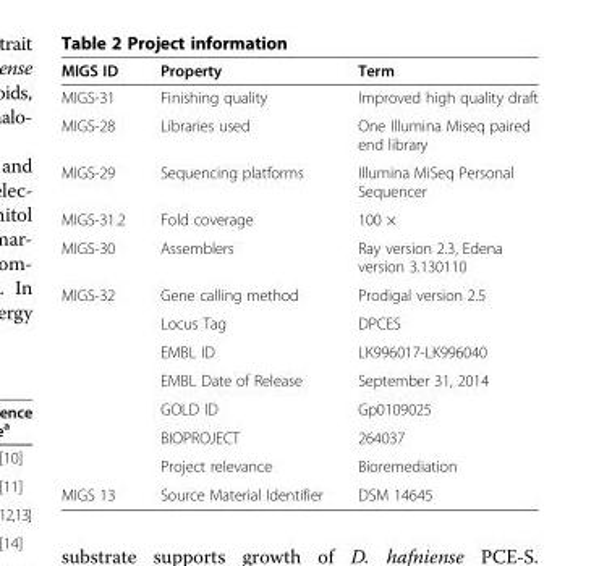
<table><thead><tr><td>MIGS ID</td><td>Property</td><td>Term</td></tr></thead><tbody><tr><td>MIGS-31</td><td>Finishing quality</td><td>Improved high quality draft</td></tr><tr><td>MIGS-28</td><td>Libraries used</td><td>One Illumina Miseq paired end library</td></tr><tr><td>MIGS-29</td><td>Sequencing platforms</td><td>Illumina MiSeq Personal Sequencer</td></tr><tr><td>MIGS-31.2</td><td>Fold coverage</td><td>100 ×</td></tr><tr><td>MIGS-30</td><td>Assemblers</td><td>Ray version 2.3, Edena version 3.130110</td></tr><tr><td rowspan="7">MIGS-32</td><td>Gene calling method</td><td>Prodigal version 2.5</td></tr><tr><td>Locus Tag</td><td>DPCES</td></tr><tr><td>EMBL ID</td><td>LK996017-LK996040</td></tr><tr><td>EMBL Date of Release</td><td>September 31, 2014</td></tr><tr><td>GOLD ID</td><td>Gp0109025</td></tr><tr><td>BIOPROJECT</td><td>264037</td></tr><tr><td>Project relevance</td><td>Bioremediation</td></tr><tr><td>MIGS 13</td><td>Source Material Identifier</td><td>DSM 14645</td></tr></tbody></table>